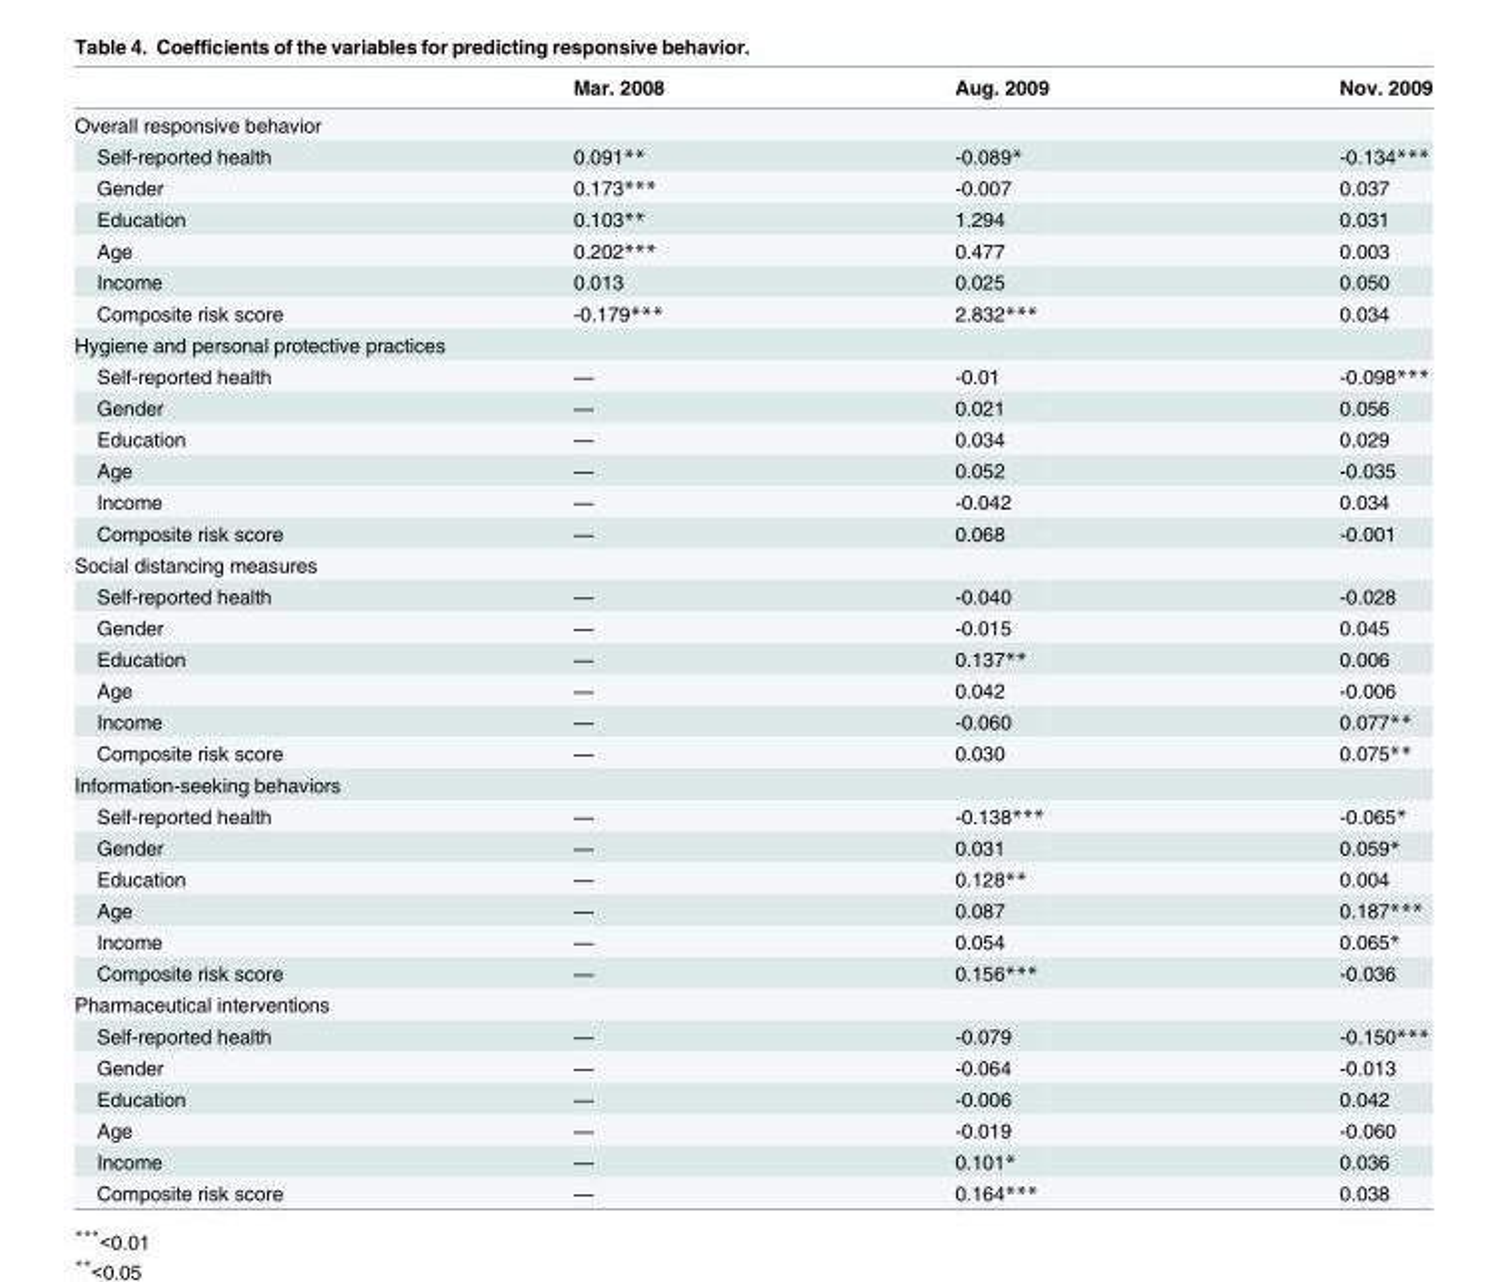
<table><thead><tr><td></td><td>Mar. 2008</td><td>Aug. 2009</td><td>Nov. 2009</td></tr></thead><tbody><tr><td colspan="4">Overall responsive behavior</td></tr><tr><td>Self-reported health</td><td>0.091**</td><td>-0.089*</td><td>-0.134***</td></tr><tr><td>Gender</td><td>0.173***</td><td>-0.007</td><td>0.037</td></tr><tr><td>Education</td><td>0.103**</td><td>1.294</td><td>0.031</td></tr><tr><td>Age</td><td>0.202***</td><td>0.477</td><td>0.003</td></tr><tr><td>Income</td><td>0.013</td><td>0.025</td><td>0.050</td></tr><tr><td>Composite risk score</td><td>-0.179***</td><td>2.832***</td><td>0.034</td></tr><tr><td colspan="4">Hygiene and personal protective practices</td></tr><tr><td>Self-reported health</td><td>—</td><td>-0.01</td><td>-0.098***</td></tr><tr><td>Gender</td><td>—</td><td>0.021</td><td>0.056</td></tr><tr><td>Education</td><td>—</td><td>0.034</td><td>0.029</td></tr><tr><td>Age</td><td>—</td><td>0.052</td><td>-0.035</td></tr><tr><td>Income</td><td>—</td><td>-0.042</td><td>0.034</td></tr><tr><td>Composite risk score</td><td>—</td><td>0.068</td><td>-0.001</td></tr><tr><td colspan="4">Social distancing measures</td></tr><tr><td>Self-reported health</td><td>—</td><td>-0.040</td><td>-0.028</td></tr><tr><td>Gender</td><td>—</td><td>-0.015</td><td>0.045</td></tr><tr><td>Education</td><td>—</td><td>0.137**</td><td>0.006</td></tr><tr><td>Age</td><td>—</td><td>0.042</td><td>-0.006</td></tr><tr><td>Income</td><td>—</td><td>-0.060</td><td>0.077**</td></tr><tr><td>Composite risk score</td><td>—</td><td>0.030</td><td>0.075**</td></tr><tr><td colspan="4">Information-seeking behaviors</td></tr><tr><td>Self-reported health</td><td>—</td><td>-0.138***</td><td>-0.065*</td></tr><tr><td>Gender</td><td>—</td><td>0.031</td><td>0.059*</td></tr><tr><td>Education</td><td>—</td><td>0.128**</td><td>0.004</td></tr><tr><td>Age</td><td>—</td><td>0.087</td><td>0.187***</td></tr><tr><td>Income</td><td>—</td><td>0.054</td><td>0.065*</td></tr><tr><td>Composite risk score</td><td>—</td><td>0.156***</td><td>-0.036</td></tr><tr><td colspan="4">Pharmaceutical interventions</td></tr><tr><td>Self-reported health</td><td>—</td><td>-0.079</td><td>-0.150***</td></tr><tr><td>Gender</td><td>—</td><td>-0.064</td><td>-0.013</td></tr><tr><td>Education</td><td>—</td><td>-0.006</td><td>0.042</td></tr><tr><td>Age</td><td>—</td><td>-0.019</td><td>-0.060</td></tr><tr><td>Income</td><td>—</td><td>0.101*</td><td>0.036</td></tr><tr><td>Composite risk score</td><td>—</td><td>0.164***</td><td>0.038</td></tr></tbody></table>